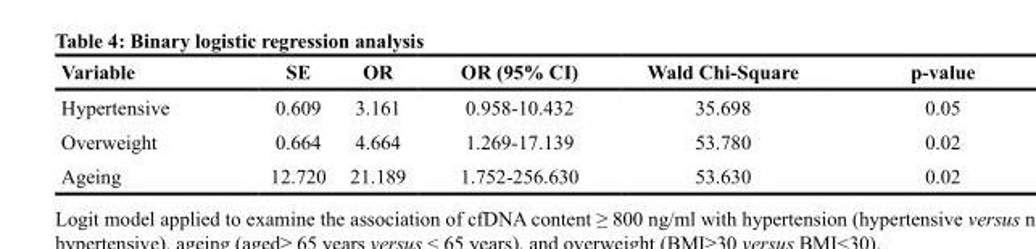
<table><thead><tr><td>Variable</td><td>SE</td><td>OR</td><td>OR (95% CI)</td><td>Wald Chi-Square</td><td>p-value</td></tr></thead><tbody><tr><td>Hypertensive</td><td>0.609</td><td>3.161</td><td>0.958-10.432</td><td>35.698</td><td>0.05</td></tr><tr><td>Overweight</td><td>0.664</td><td>4.664</td><td>1.269-17.139</td><td>53.780</td><td>0.02</td></tr><tr><td>Ageing</td><td>12.720</td><td>21.189</td><td>1.752-256.630</td><td>53.630</td><td>0.02</td></tr></tbody></table>